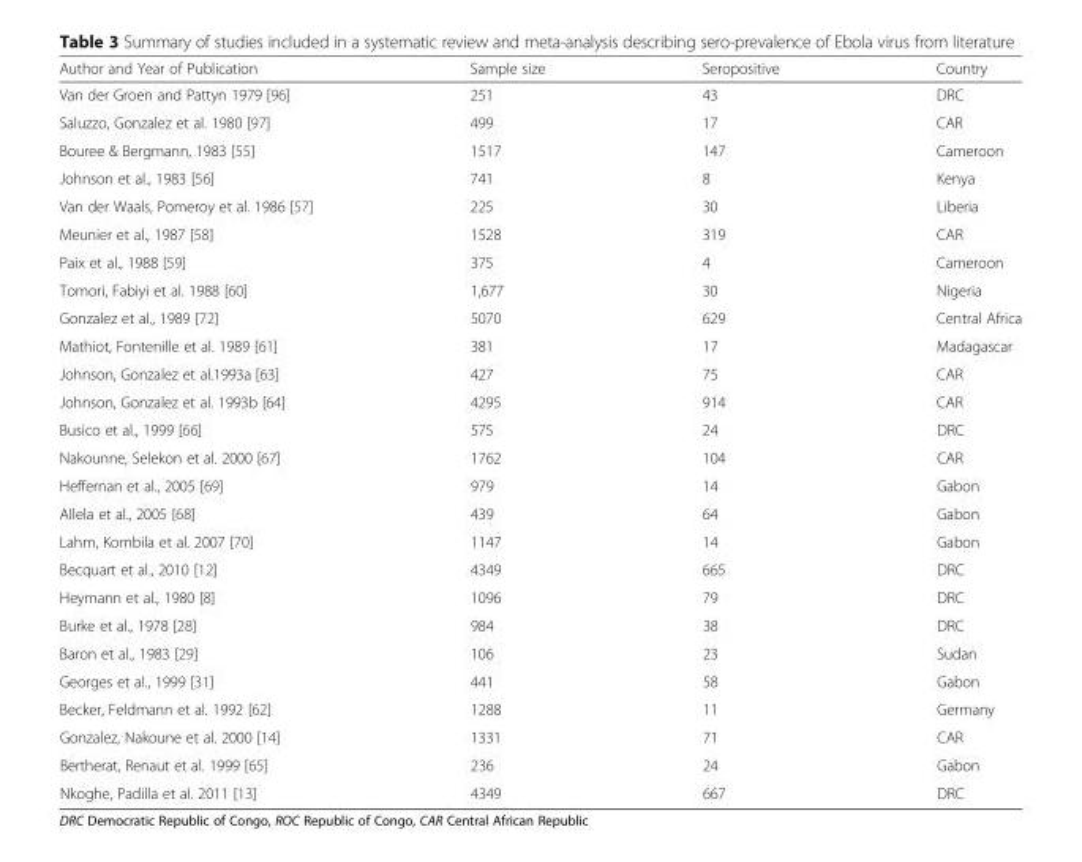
<table><thead><tr><td>Author and Year of Publication</td><td>Sample size</td><td>Seropositive</td><td>Country</td></tr></thead><tbody><tr><td>Van der Groen and Pattyn 1979 [96]</td><td>251</td><td>43</td><td>DRC</td></tr><tr><td>Saluzzo, Gonzalez et al. 1980 [97]</td><td>499</td><td>17</td><td>CAR</td></tr><tr><td>Bouree &amp; Bergmann, 1983 [55]</td><td>1517</td><td>147</td><td>Cameroon</td></tr><tr><td>Johnson et al., 1983 [56]</td><td>741</td><td>8</td><td>Kenya</td></tr><tr><td>Van der Waals, Pomeroy et al. 1986 [57]</td><td>225</td><td>30</td><td>Liberia</td></tr><tr><td>Meunier et al., 1987 [58]</td><td>1528</td><td>319</td><td>CAR</td></tr><tr><td>Paix et al., 1988 [59]</td><td>375</td><td>4</td><td>Cameroon</td></tr><tr><td>Tomori, Fabiyi et al. 1988 [60]</td><td>1,677</td><td>30</td><td>Nigeria</td></tr><tr><td>Gonzalez et al., 1989 [72]</td><td>5070</td><td>629</td><td>Central Africa</td></tr><tr><td>Mathiot, Fontenille et al. 1989 [61]</td><td>381</td><td>17</td><td>Madagascar</td></tr><tr><td>Johnson, Gonzalez et al.1993a [63]</td><td>427</td><td>75</td><td>CAR</td></tr><tr><td>Johnson, Gonzalez et al. 1993b [64]</td><td>4295</td><td>914</td><td>CAR</td></tr><tr><td>Busico et al., 1999 [66]</td><td>575</td><td>24</td><td>DRC</td></tr><tr><td>Nakounne, Selekon et al. 2000 [67]</td><td>1762</td><td>104</td><td>CAR</td></tr><tr><td>Heffernan et al., 2005 [69]</td><td>979</td><td>14</td><td>Gabon</td></tr><tr><td>Allela et al., 2005 [68]</td><td>439</td><td>64</td><td>Gabon</td></tr><tr><td>Lahm, Kombila et al. 2007 [70]</td><td>1147</td><td>14</td><td>Gabon</td></tr><tr><td>Becquart et al., 2010 [12]</td><td>4349</td><td>665</td><td>DRC</td></tr><tr><td>Heymann et al., 1980 [8]</td><td>1096</td><td>79</td><td>DRC</td></tr><tr><td>Burke et al., 1978 [28]</td><td>984</td><td>38</td><td>DRC</td></tr><tr><td>Baron et al., 1983 [29]</td><td>106</td><td>23</td><td>Sudan</td></tr><tr><td>Georges et al., 1999 [31]</td><td>441</td><td>58</td><td>Gabon</td></tr><tr><td>Becker, Feldmann et al. 1992 [62]</td><td>1288</td><td>11</td><td>Germany</td></tr><tr><td>Gonzalez, Nakoune et al. 2000 [14]</td><td>1331</td><td>71</td><td>CAR</td></tr><tr><td>Bertherat, Renaut et al. 1999 [65]</td><td>236</td><td>24</td><td>Gabon</td></tr><tr><td>Nkoghe, Padilla et al. 2011 [13]</td><td>4349</td><td>667</td><td>DRC</td></tr></tbody></table>